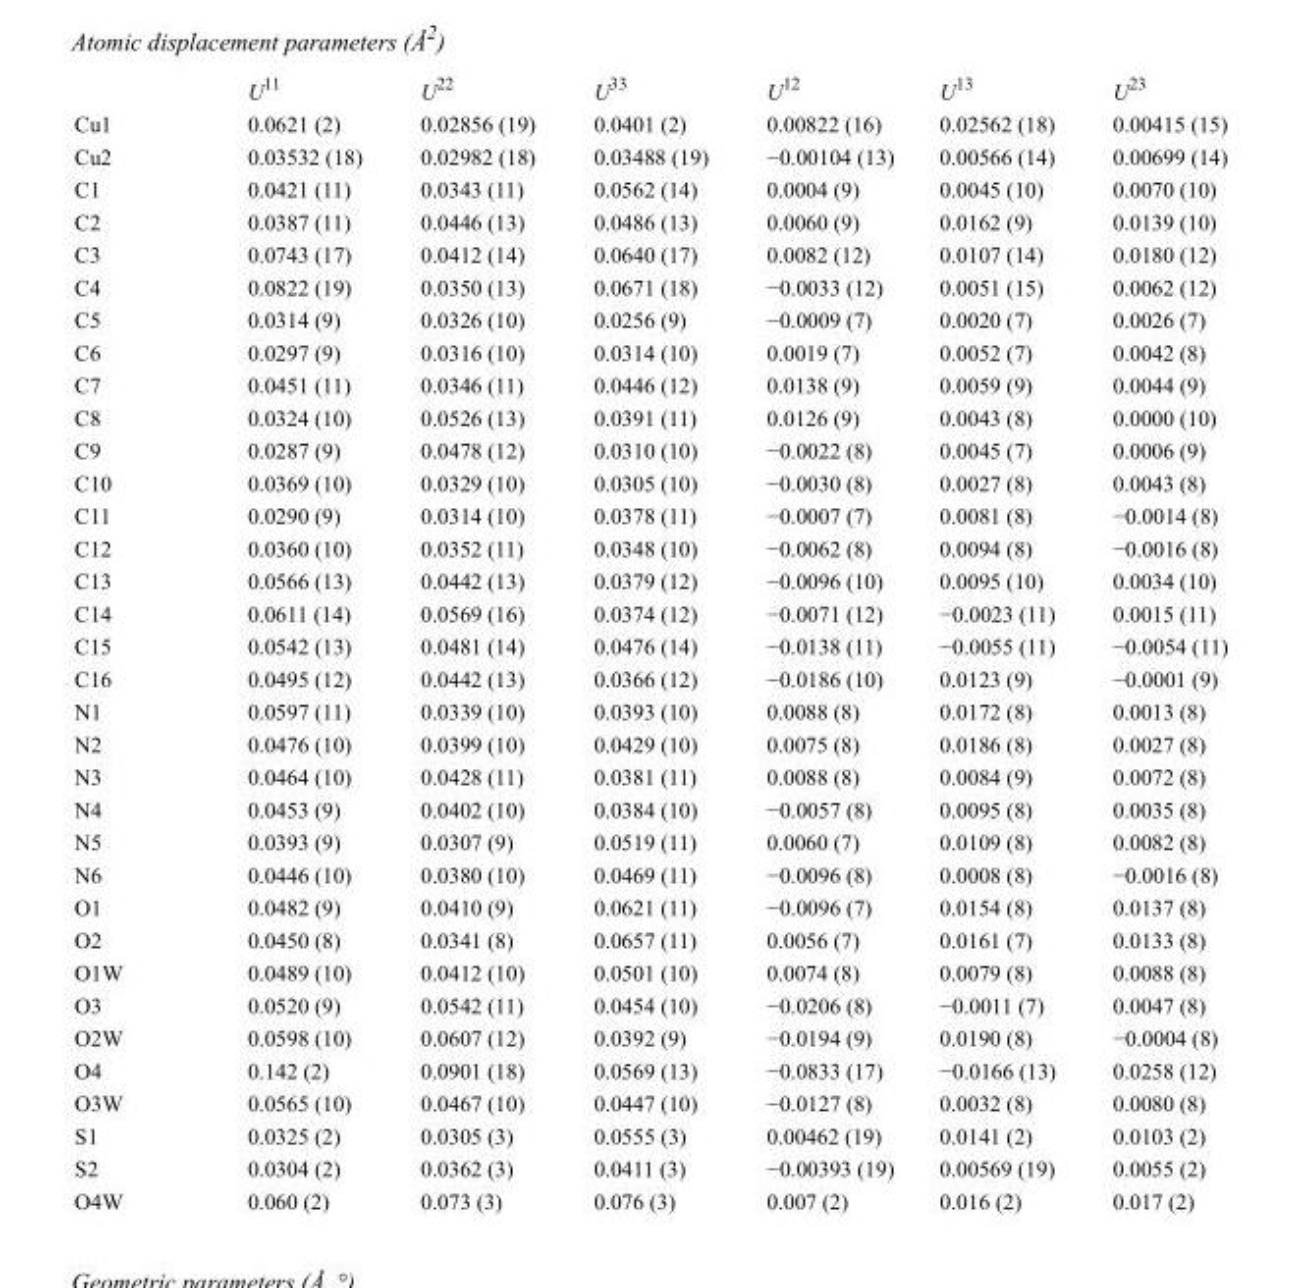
<table><thead><tr><td></td><td>U<sup>11</sup></td><td>U<sup>22</sup></td><td>U<sup>33</sup></td><td>U<sup>12</sup></td><td>U<sup>13</sup></td><td>U<sup>23</sup></td></tr></thead><tbody><tr><td>Cu1</td><td>0.0621 (2)</td><td>0.02856 (19)</td><td>0.0401 (2)</td><td>0.00822 (16)</td><td>0.02562 (18)</td><td>0.00415 (15)</td></tr><tr><td>Cu2</td><td>0.03532 (18)</td><td>0.02982 (18)</td><td>0.03488 (19)</td><td>−0.00104 (13)</td><td>0.00566 (14)</td><td>0.00699 (14)</td></tr><tr><td>C1</td><td>0.0421 (11)</td><td>0.0343 (11)</td><td>0.0562 (14)</td><td>0.0004 (9)</td><td>0.0045 (10)</td><td>0.0070 (10)</td></tr><tr><td>C2</td><td>0.0387 (11)</td><td>0.0446 (13)</td><td>0.0486 (13)</td><td>0.0060 (9)</td><td>0.0162 (9)</td><td>0.0139 (10)</td></tr><tr><td>C3</td><td>0.0743 (17)</td><td>0.0412 (14)</td><td>0.0640 (17)</td><td>0.0082 (12)</td><td>0.0107 (14)</td><td>0.0180 (12)</td></tr><tr><td>C4</td><td>0.0822 (19)</td><td>0.0350 (13)</td><td>0.0671 (18)</td><td>−0.0033 (12)</td><td>0.0051 (15)</td><td>0.0062 (12)</td></tr><tr><td>C5</td><td>0.0314 (9)</td><td>0.0326 (10)</td><td>0.0256 (9)</td><td>−0.0009 (7)</td><td>0.0020 (7)</td><td>0.0026 (7)</td></tr><tr><td>C6</td><td>0.0297 (9)</td><td>0.0316 (10)</td><td>0.0314 (10)</td><td>0.0019 (7)</td><td>0.0052 (7)</td><td>0.0042 (8)</td></tr><tr><td>C7</td><td>0.0451 (11)</td><td>0.0346 (11)</td><td>0.0446 (12)</td><td>0.0138 (9)</td><td>0.0059 (9)</td><td>0.0044 (9)</td></tr><tr><td>C8</td><td>0.0324 (10)</td><td>0.0526 (13)</td><td>0.0391 (11)</td><td>0.0126 (9)</td><td>0.0043 (8)</td><td>0.0000 (10)</td></tr><tr><td>C9</td><td>0.0287 (9)</td><td>0.0478 (12)</td><td>0.0310 (10)</td><td>−0.0022 (8)</td><td>0.0045 (7)</td><td>0.0006 (9)</td></tr><tr><td>C10</td><td>0.0369 (10)</td><td>0.0329 (10)</td><td>0.0305 (10)</td><td>−0.0030 (8)</td><td>0.0027 (8)</td><td>0.0043 (8)</td></tr><tr><td>C11</td><td>0.0290 (9)</td><td>0.0314 (10)</td><td>0.0378 (11)</td><td>−0.0007 (7)</td><td>0.0081 (8)</td><td>−0.0014 (8)</td></tr><tr><td>C12</td><td>0.0360 (10)</td><td>0.0352 (11)</td><td>0.0348 (10)</td><td>−0.0062 (8)</td><td>0.0094 (8)</td><td>−0.0016 (8)</td></tr><tr><td>C13</td><td>0.0566 (13)</td><td>0.0442 (13)</td><td>0.0379 (12)</td><td>−0.0096 (10)</td><td>0.0095 (10)</td><td>0.0034 (10)</td></tr><tr><td>C14</td><td>0.0611 (14)</td><td>0.0569 (16)</td><td>0.0374 (12)</td><td>−0.0071 (12)</td><td>−0.0023 (11)</td><td>0.0015 (11)</td></tr><tr><td>C15</td><td>0.0542 (13)</td><td>0.0481 (14)</td><td>0.0476 (14)</td><td>−0.0138 (11)</td><td>−0.0055 (11)</td><td>−0.0054 (11)</td></tr><tr><td>C16</td><td>0.0495 (12)</td><td>0.0442 (13)</td><td>0.0366 (12)</td><td>−0.0186 (10)</td><td>0.0123 (9)</td><td>−0.0001 (9)</td></tr><tr><td>N1</td><td>0.0597 (11)</td><td>0.0339 (10)</td><td>0.0393 (10)</td><td>0.0088 (8)</td><td>0.0172 (8)</td><td>0.0013 (8)</td></tr><tr><td>N2</td><td>0.0476 (10)</td><td>0.0399 (10)</td><td>0.0429 (10)</td><td>0.0075 (8)</td><td>0.0186 (8)</td><td>0.0027 (8)</td></tr><tr><td>N3</td><td>0.0464 (10)</td><td>0.0428 (11)</td><td>0.0381 (11)</td><td>0.0088 (8)</td><td>0.0084 (9)</td><td>0.0072 (8)</td></tr><tr><td>N4</td><td>0.0453 (9)</td><td>0.0402 (10)</td><td>0.0384 (10)</td><td>−0.0057 (8)</td><td>0.0095 (8)</td><td>0.0035 (8)</td></tr><tr><td>N5</td><td>0.0393 (9)</td><td>0.0307 (9)</td><td>0.0519 (11)</td><td>0.0060 (7)</td><td>0.0109 (8)</td><td>0.0082 (8)</td></tr><tr><td>N6</td><td>0.0446 (10)</td><td>0.0380 (10)</td><td>0.0469 (11)</td><td>−0.0096 (8)</td><td>0.0008 (8)</td><td>−0.0016 (8)</td></tr><tr><td>O1</td><td>0.0482 (9)</td><td>0.0410 (9)</td><td>0.0621 (11)</td><td>−0.0096 (7)</td><td>0.0154 (8)</td><td>0.0137 (8)</td></tr><tr><td>O2</td><td>0.0450 (8)</td><td>0.0341 (8)</td><td>0.0657 (11)</td><td>0.0056 (7)</td><td>0.0161 (7)</td><td>0.0133 (8)</td></tr><tr><td>O1W</td><td>0.0489 (10)</td><td>0.0412 (10)</td><td>0.0501 (10)</td><td>0.0074 (8)</td><td>0.0079 (8)</td><td>0.0088 (8)</td></tr><tr><td>O3</td><td>0.0520 (9)</td><td>0.0542 (11)</td><td>0.0454 (10)</td><td>−0.0206 (8)</td><td>−0.0011 (7)</td><td>0.0047 (8)</td></tr><tr><td>O2W</td><td>0.0598 (10)</td><td>0.0607 (12)</td><td>0.0392 (9)</td><td>−0.0194 (9)</td><td>0.0190 (8)</td><td>−0.0004 (8)</td></tr><tr><td>O4</td><td>0.142 (2)</td><td>0.0901 (18)</td><td>0.0569 (13)</td><td>−0.0833 (17)</td><td>−0.0166 (13)</td><td>0.0258 (12)</td></tr><tr><td>O3W</td><td>0.0565 (10)</td><td>0.0467 (10)</td><td>0.0447 (10)</td><td>−0.0127 (8)</td><td>0.0032 (8)</td><td>0.0080 (8)</td></tr><tr><td>S1</td><td>0.0325 (2)</td><td>0.0305 (3)</td><td>0.0555 (3)</td><td>0.00462 (19)</td><td>0.0141 (2)</td><td>0.0103 (2)</td></tr><tr><td>S2</td><td>0.0304 (2)</td><td>0.0362 (3)</td><td>0.0411 (3)</td><td>−0.00393 (19)</td><td>0.00569 (19)</td><td>0.0055 (2)</td></tr><tr><td>O4W</td><td>0.060 (2)</td><td>0.073 (3)</td><td>0.076 (3)</td><td>0.007 (2)</td><td>0.016 (2)</td><td>0.017 (2)</td></tr></tbody></table>